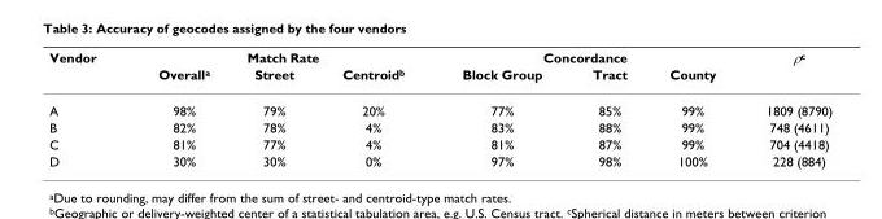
<table><thead><tr><td rowspan="2">Vendor</td><td colspan="3">Match Rate</td><td colspan="3">Concordance</td><td rowspan="2">ρ<sup>c</sup></td></tr><tr><td>Overall<sup>a</sup></td><td>Street</td><td>Centroid<sup>b</sup></td><td>Block Group</td><td>Tract</td><td>County</td></tr></thead><tbody><tr><td>A</td><td>98%</td><td>79%</td><td>20%</td><td>77%</td><td>85%</td><td>99%</td><td>1809 (8790)</td></tr><tr><td>B</td><td>82%</td><td>78%</td><td>4%</td><td>83%</td><td>88%</td><td>99%</td><td>748 (4611)</td></tr><tr><td>C</td><td>81%</td><td>77%</td><td>4%</td><td>81%</td><td>87%</td><td>99%</td><td>704 (4418)</td></tr><tr><td>D</td><td>30%</td><td>30%</td><td>0%</td><td>97%</td><td>98%</td><td>100%</td><td>228 (884)</td></tr></tbody></table>